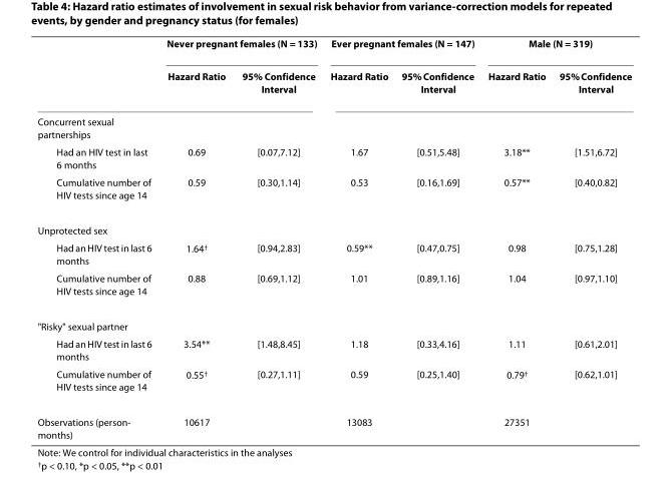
<table><thead><tr><td rowspan="2"></td><td colspan="2">Never pregnant females (N = 133)</td><td colspan="2">Ever pregnant females (N = 147)</td><td colspan="2">Male (N = 319)</td></tr><tr><td>Hazard Ratio</td><td>95% Confidence Interval</td><td>Hazard Ratio</td><td>95% Confidence Interval</td><td>Hazard Ratio</td><td>95% Confidence Interval</td></tr></thead><tbody><tr><td colspan="7">Concurrent sexual partnerships</td></tr><tr><td>Had an HIV test in last 6 months</td><td>0.69</td><td>[0.07,7.12]</td><td>1.67</td><td>[0.51,5.48]</td><td>3.18**</td><td>[1.51,6.72]</td></tr><tr><td>Cumulative number of HIV tests since age 14</td><td>0.59</td><td>[0.30,1.14]</td><td>0.53</td><td>[0.16,1.69]</td><td>0.57**</td><td>[0.40,0.82]</td></tr><tr><td colspan="7">Unprotected sex</td></tr><tr><td>Had an HIV test in last 6 months</td><td>1.64<sup>†</sup></td><td>[0.94,2.83]</td><td>0.59**</td><td>[0.47,0.75]</td><td>0.98</td><td>[0.75,1.28]</td></tr><tr><td>Cumulative number of HIV tests since age 14</td><td>0.88</td><td>[0.69,1.12]</td><td>1.01</td><td>[0.89,1.16]</td><td>1.04</td><td>[0.97,1.10]</td></tr><tr><td colspan="7">&quot;Risky&quot; sexual partner</td></tr><tr><td>Had an HIV test in last 6 months</td><td>3.54**</td><td>[1.48,8.45]</td><td>1.18</td><td>[0.33,4.16]</td><td>1.11</td><td>[0.61,2.01]</td></tr><tr><td>Cumulative number of HIV tests since age 14</td><td>0.55<sup>†</sup></td><td>[0.27,1.11]</td><td>0.59</td><td>[0.25,1.40]</td><td>0.79<sup>†</sup></td><td>[0.62,1.01]</td></tr><tr><td>Observations (person- months)</td><td>10617</td><td></td><td>13083</td><td></td><td>27351</td><td></td></tr></tbody></table>